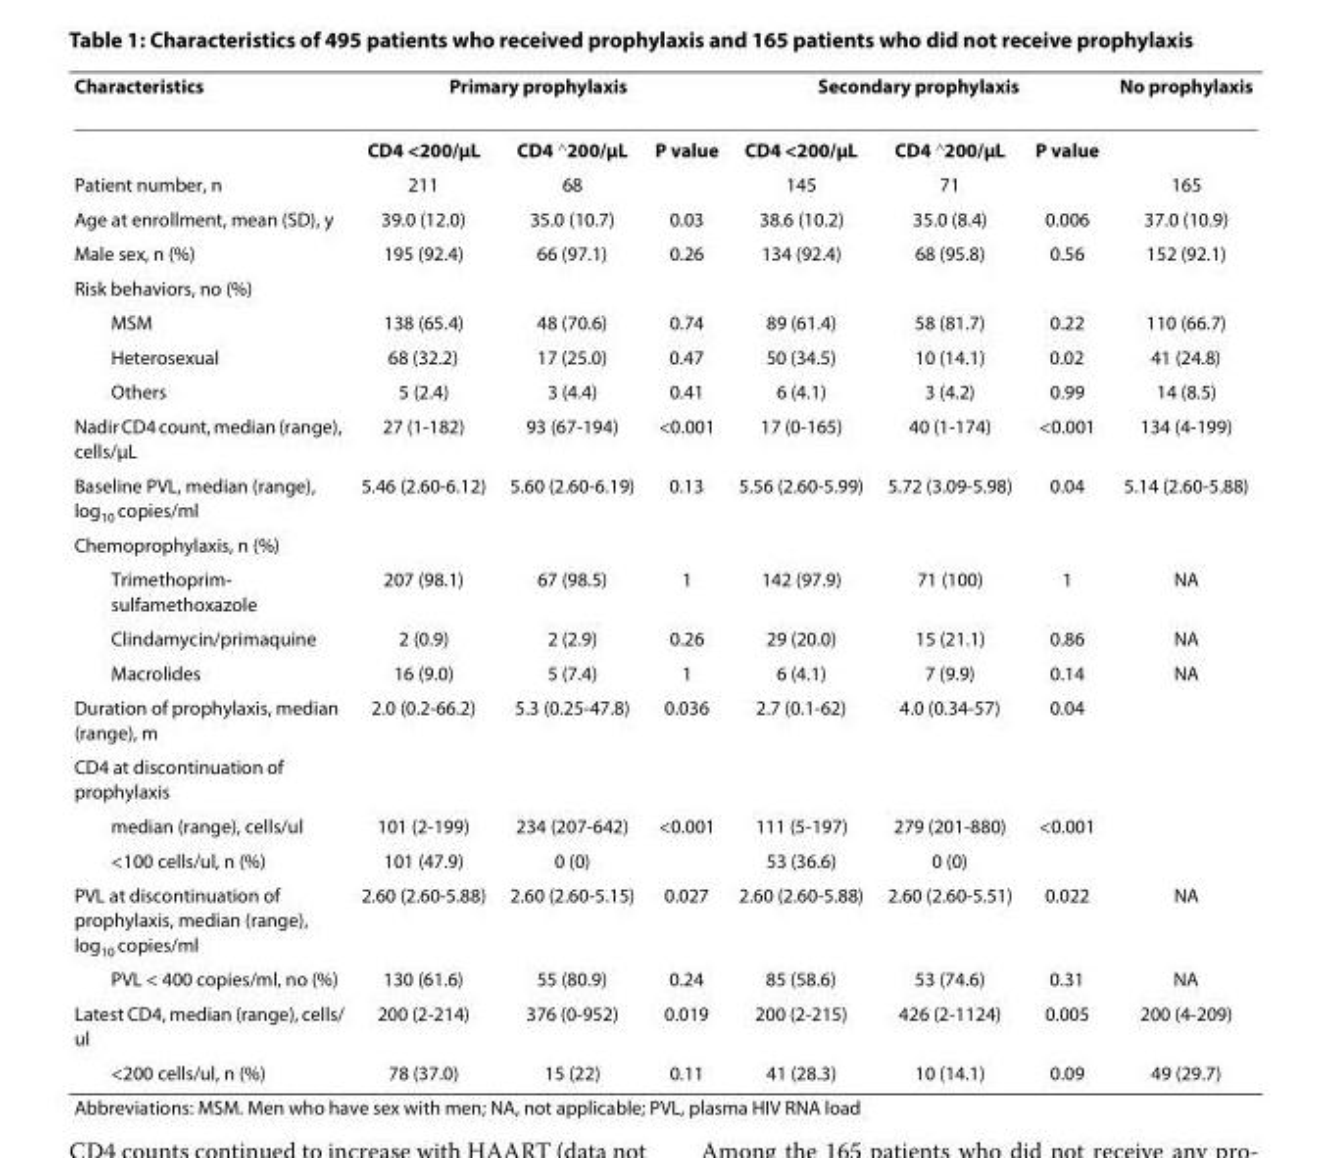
<table><thead><tr><td rowspan="2">Characteristics</td><td colspan="3">Primary prophylaxis</td><td colspan="3">Secondary prophylaxis</td><td rowspan="2">No prophylaxis</td></tr><tr><td>CD4 &lt;200/μL</td><td>CD4 ≧200/μL</td><td>P value</td><td>CD4 &lt;200/μL</td><td>CD4 ≧200/μL</td><td>P value</td></tr></thead><tbody><tr><td>Patient number, n</td><td>211</td><td>68</td><td></td><td>145</td><td>71</td><td></td><td>165</td></tr><tr><td>Age at enrollment, mean (SD), y</td><td>39.0 (12.0)</td><td>35.0 (10.7)</td><td>0.03</td><td>38.6 (10.2)</td><td>35.0 (8.4)</td><td>0.006</td><td>37.0 (10.9)</td></tr><tr><td>Male sex, n (%)</td><td>195 (92.4)</td><td>66 (97.1)</td><td>0.26</td><td>134 (92.4)</td><td>68 (95.8)</td><td>0.56</td><td>152 (92.1)</td></tr><tr><td colspan="8">Risk behaviors, no (%)</td></tr><tr><td>MSM</td><td>138 (65.4)</td><td>48 (70.6)</td><td>0.74</td><td>89 (61.4)</td><td>58 (81.7)</td><td>0.22</td><td>110 (66.7)</td></tr><tr><td>Heterosexual</td><td>68 (32.2)</td><td>17 (25.0)</td><td>0.47</td><td>50 (34.5)</td><td>10 (14.1)</td><td>0.02</td><td>41 (24.8)</td></tr><tr><td>Others</td><td>5 (2.4)</td><td>3 (4.4)</td><td>0.41</td><td>6 (4.1)</td><td>3 (4.2)</td><td>0.99</td><td>14 (8.5)</td></tr><tr><td>Nadir CD4 count, median (range), cells/μL</td><td>27 (1-182)</td><td>93 (67-194)</td><td>&lt;0.001</td><td>17 (0-165)</td><td>40 (1-174)</td><td>&lt;0.001</td><td>134 (4-199)</td></tr><tr><td>Baseline PVL, median (range), log<sub>10</sub> copies/ml</td><td>5.46 (2.60-6.12)</td><td>5.60 (2.60-6.19)</td><td>0.13</td><td>5.56 (2.60-5.99)</td><td>5.72 (3.09-5.98)</td><td>0.04</td><td>5.14 (2.60-5.88)</td></tr><tr><td colspan="8">Chemoprophylaxis, n (%)</td></tr><tr><td>Trimethoprim- sulfamethoxazole</td><td>207 (98.1)</td><td>67 (98.5)</td><td>1</td><td>142 (97.9)</td><td>71 (100)</td><td>1</td><td>NA</td></tr><tr><td>Clindamycin/primaquine</td><td>2 (0.9)</td><td>2 (2.9)</td><td>0.26</td><td>29 (20.0)</td><td>15 (21.1)</td><td>0.86</td><td>NA</td></tr><tr><td>Macrolides</td><td>16 (9.0)</td><td>5 (7.4)</td><td>1</td><td>6 (4.1)</td><td>7 (9.9)</td><td>0.14</td><td>NA</td></tr><tr><td>Duration of prophylaxis, median (range), m</td><td>2.0 (0.2-66.2)</td><td>5.3 (0.25-47.8)</td><td>0.036</td><td>2.7 (0.1-62)</td><td>4.0 (0.34-57)</td><td>0.04</td><td></td></tr><tr><td colspan="8">CD4 at discontinuation of prophylaxis</td></tr><tr><td>median (range), cells/ul</td><td>101 (2-199)</td><td>234 (207-642)</td><td>&lt;0.001</td><td>111 (5-197)</td><td>279 (201-880)</td><td>&lt;0.001</td><td></td></tr><tr><td>&lt;100 cells/ul, n (%)</td><td>101 (47.9)</td><td>0 (0)</td><td></td><td>53 (36.6)</td><td>0 (0)</td><td></td><td></td></tr><tr><td>PVL at discontinuation of prophylaxis, median (range), log<sub>10</sub> copies/ml</td><td>2.60 (2.60-5.88)</td><td>2.60 (2.60-5.15)</td><td>0.027</td><td>2.60 (2.60-5.88)</td><td>2.60 (2.60-5.51)</td><td>0.022</td><td>NA</td></tr><tr><td>PVL &lt; 400 copies/ml, no (%)</td><td>130 (61.6)</td><td>55 (80.9)</td><td>0.24</td><td>85 (58.6)</td><td>53 (74.6)</td><td>0.31</td><td>NA</td></tr><tr><td>Latest CD4, median (range), cells/ ul</td><td>200 (2-214)</td><td>376 (0-952)</td><td>0.019</td><td>200 (2-215)</td><td>426 (2-1124)</td><td>0.005</td><td>200 (4-209)</td></tr><tr><td>&lt;200 cells/ul, n (%)</td><td>78 (37.0)</td><td>15 (22)</td><td>0.11</td><td>41 (28.3)</td><td>10 (14.1)</td><td>0.09</td><td>49 (29.7)</td></tr></tbody></table>